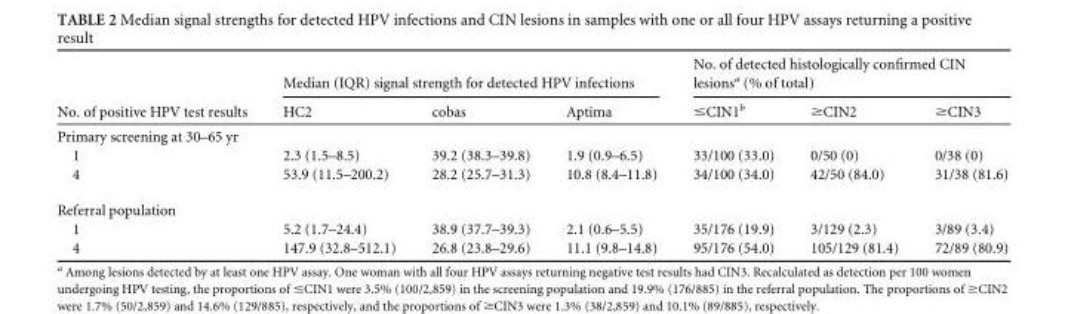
<table><thead><tr><td rowspan="2">No. of positive HPV test results</td><td colspan="3">Median (IQR) signal strength for detected HPV infections</td><td colspan="3">No. of detected histologically confirmed CIN lesions<sup>a</sup> (% of total)</td></tr><tr><td>HC2</td><td>cobas</td><td>Aptima</td><td>≤CIN1<sup>b</sup></td><td>≥CIN2</td><td>≥CIN3</td></tr></thead><tbody><tr><td colspan="7">Primary screening at 30–65 yr</td></tr><tr><td>1</td><td>2.3 (1.5–8.5)</td><td>39.2 (38.3–39.8)</td><td>1.9 (0.9–6.5)</td><td>33/100 (33.0)</td><td>0/50 (0)</td><td>0/38 (0)</td></tr><tr><td>4</td><td>53.9 (11.5–200.2)</td><td>28.2 (25.7–31.3)</td><td>10.8 (8.4–11.8)</td><td>34/100 (34.0)</td><td>42/50 (84.0)</td><td>31/38 (81.6)</td></tr><tr><td colspan="7">Referral population</td></tr><tr><td>1</td><td>5.2 (1.7–24.4)</td><td>38.9 (37.7–39.3)</td><td>2.1 (0.6–5.5)</td><td>35/176 (19.9)</td><td>3/129 (2.3)</td><td>3/89 (3.4)</td></tr><tr><td>4</td><td>147.9 (32.8–512.1)</td><td>26.8 (23.8–29.6)</td><td>11.1 (9.8–14.8)</td><td>95/176 (54.0)</td><td>105/129 (81.4)</td><td>72/89 (80.9)</td></tr></tbody></table>